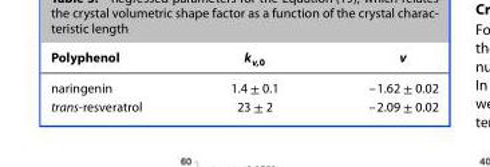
<table><thead><tr><td>Polyphenol</td><td>k<sub>v,0</sub></td><td>v</td></tr></thead><tbody><tr><td>naringenin</td><td>1.4 ± 0.1</td><td>–1.62 ± 0.02</td></tr><tr><td>trans-resveratrol</td><td>23 ± 2</td><td>–2.09 ± 0.02</td></tr></tbody></table>